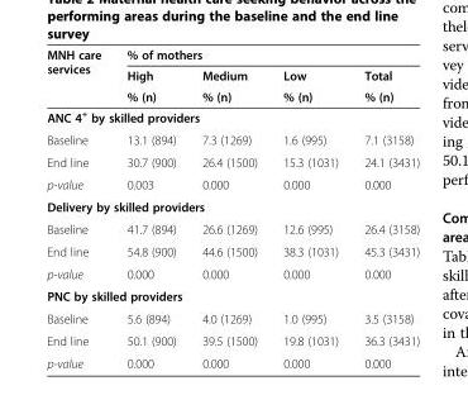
<table><thead><tr><td rowspan="3">MNH care services</td><td colspan="4">% of mothers</td></tr><tr><td rowspan="2">High % (n)</td><td rowspan="2">Medium % (n)</td><td rowspan="2">Low % (n)</td><td rowspan="2">Total % (n)</td></tr><tr></tr></thead><tbody><tr><td colspan="5">ANC 4<sup>+</sup> by skilled providers</td></tr><tr><td>Baseline</td><td>13.1 (894)</td><td>7.3 (1269)</td><td>1.6 (995)</td><td>7.1 (3158)</td></tr><tr><td>End line</td><td>30.7 (900)</td><td>26.4 (1500)</td><td>15.3 (1031)</td><td>24.1 (3431)</td></tr><tr><td>p-value</td><td>0.003</td><td>0.000</td><td>0.000</td><td>0.000</td></tr><tr><td colspan="5">Delivery by skilled providers</td></tr><tr><td>Baseline</td><td>41.7 (894)</td><td>26.6 (1269)</td><td>12.6 (995)</td><td>26.4 (3158)</td></tr><tr><td>End line</td><td>54.8 (900)</td><td>44.6 (1500)</td><td>38.3 (1031)</td><td>45.3 (3431)</td></tr><tr><td>p-value</td><td>0.000</td><td>0.000</td><td>0.000</td><td>0.000</td></tr><tr><td colspan="5">PNC by skilled providers</td></tr><tr><td>Baseline</td><td>5.6 (894)</td><td>4.0 (1269)</td><td>1.0 (995)</td><td>3.5 (3158)</td></tr><tr><td>End line</td><td>50.1 (900)</td><td>39.5 (1500)</td><td>19.8 (1031)</td><td>36.3 (3431)</td></tr><tr><td>p-value</td><td>0.000</td><td>0.000</td><td>0.000</td><td>0.000</td></tr></tbody></table>